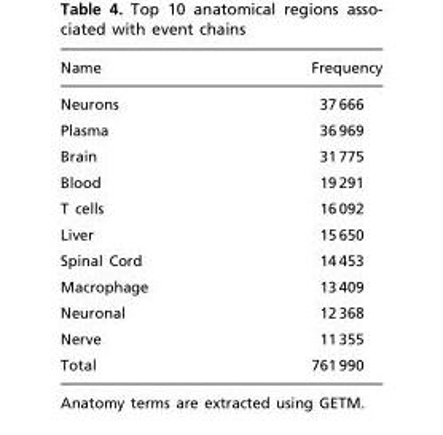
<table><thead><tr><td>Name</td><td>Frequency</td></tr></thead><tbody><tr><td>Neurons</td><td>37 666</td></tr><tr><td>Plasma</td><td>36 969</td></tr><tr><td>Brain</td><td>31 775</td></tr><tr><td>Blood</td><td>19 291</td></tr><tr><td>T cells</td><td>16 092</td></tr><tr><td>Liver</td><td>15 650</td></tr><tr><td>Spinal Cord</td><td>14 453</td></tr><tr><td>Macrophage</td><td>13 409</td></tr><tr><td>Neuronal</td><td>12 368</td></tr><tr><td>Nerve</td><td>11 355</td></tr><tr><td>Total</td><td>761 990</td></tr></tbody></table>